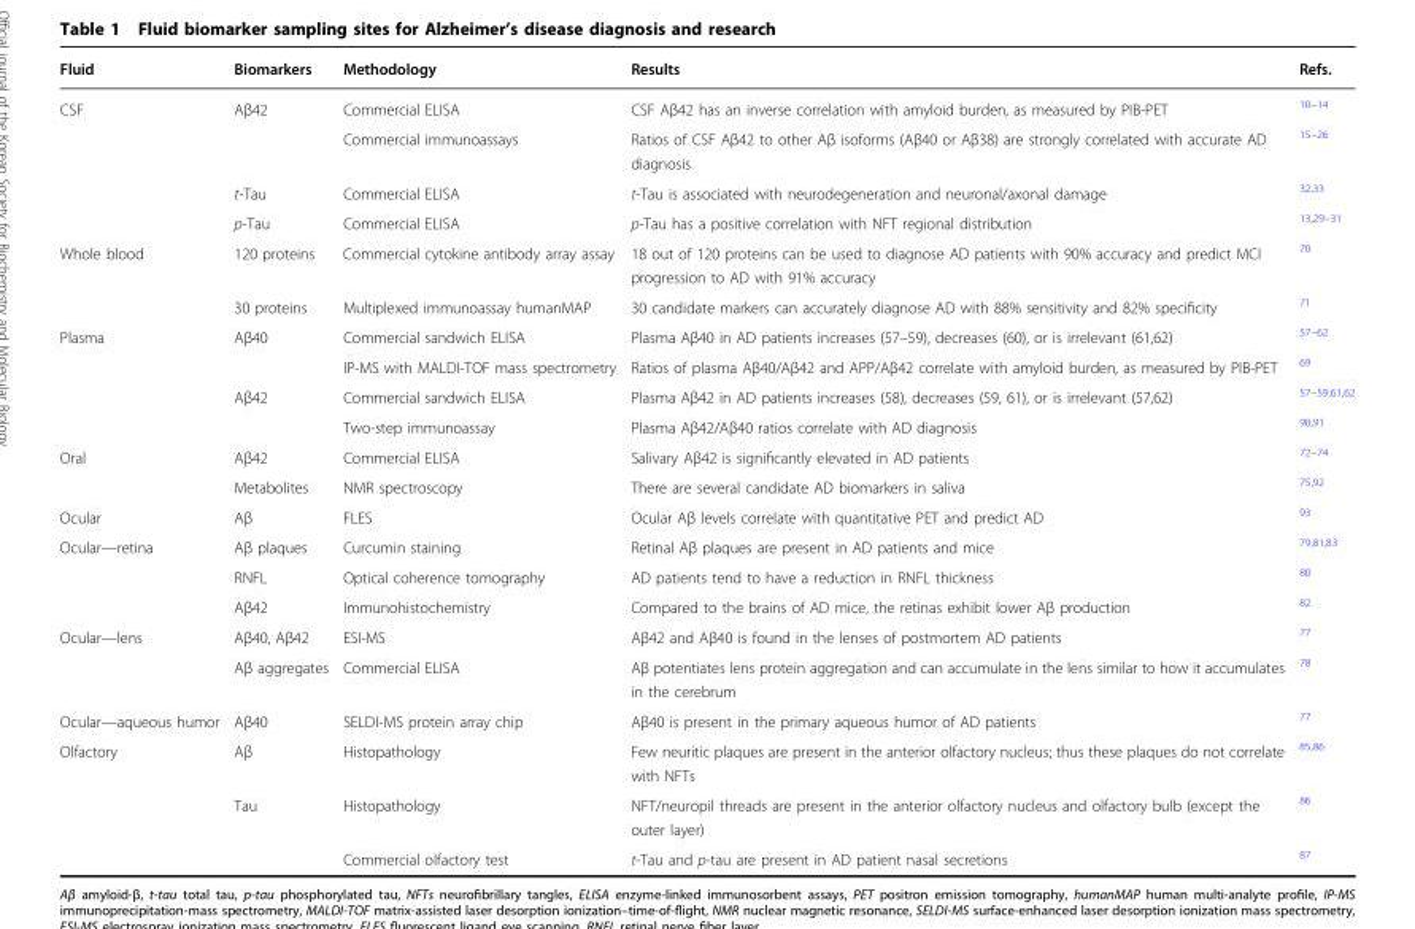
<table><thead><tr><td>Fluid</td><td>Biomarkers</td><td>Methodology</td><td>Results</td><td>Refs.</td></tr></thead><tbody><tr><td rowspan="4">CSF</td><td rowspan="2">Aβ42</td><td>Commercial ELISA</td><td>CSF Aβ42 has an inverse correlation with amyloid burden, as measured by PIB-PET</td><td><sup>10–14</sup></td></tr><tr><td>Commercial immunoassays</td><td>Ratios of CSF Aβ42 to other Aβ isoforms (Aβ40 or Aβ38) are strongly correlated with accurate AD diagnosis</td><td><sup>15–26</sup></td></tr><tr><td>t-Tau</td><td>Commercial ELISA</td><td>t-Tau is associated with neurodegeneration and neuronal/axonal damage</td><td><sup>32,33</sup></td></tr><tr><td>p-Tau</td><td>Commercial ELISA</td><td>p-Tau has a positive correlation with NFT regional distribution</td><td><sup>13,29–31</sup></td></tr><tr><td rowspan="2">Whole blood</td><td>120 proteins</td><td>Commercial cytokine antibody array assay</td><td>18 out of 120 proteins can be used to diagnose AD patients with 90% accuracy and predict MCI progression to AD with 91% accuracy</td><td><sup>70</sup></td></tr><tr><td>30 proteins</td><td>Multiplexed immunoassay humanMAP</td><td>30 candidate markers can accurately diagnose AD with 88% sensitivity and 82% specificity</td><td><sup>71</sup></td></tr><tr><td rowspan="4">Plasma</td><td rowspan="2">Aβ40</td><td>Commercial sandwich ELISA</td><td>Plasma Aβ40 in AD patients increases (57–59), decreases (60), or is irrelevant (61,62)</td><td><sup>57–62</sup></td></tr><tr><td>IP-MS with MALDI-TOF mass spectrometry</td><td>Ratios of plasma Aβ40/Aβ42 and APP/Aβ42 correlate with amyloid burden, as measured by PIB-PET</td><td><sup>69</sup></td></tr><tr><td rowspan="2">Aβ42</td><td>Commercial sandwich ELISA</td><td>Plasma Aβ42 in AD patients increases (58), decreases (59, 61), or is irrelevant (57,62)</td><td><sup>57–59,61,62</sup></td></tr><tr><td>Two-step immunoassay</td><td>Plasma Aβ42/Aβ40 ratios correlate with AD diagnosis</td><td><sup>90,91</sup></td></tr><tr><td rowspan="2">Oral</td><td>Aβ42</td><td>Commercial ELISA</td><td>Salivary Aβ42 is significantly elevated in AD patients</td><td><sup>72–74</sup></td></tr><tr><td>Metabolites</td><td>NMR spectroscopy</td><td>There are several candidate AD biomarkers in saliva</td><td><sup>75,92</sup></td></tr><tr><td>Ocular</td><td>Aβ</td><td>FLES</td><td>Ocular Aβ levels correlate with quantitative PET and predict AD</td><td><sup>93</sup></td></tr><tr><td rowspan="3">Ocular—retina</td><td>Aβ plaques</td><td>Curcumin staining</td><td>Retinal Aβ plaques are present in AD patients and mice</td><td><sup>79,81,83</sup></td></tr><tr><td>RNFL</td><td>Optical coherence tomography</td><td>AD patients tend to have a reduction in RNFL thickness</td><td><sup>80</sup></td></tr><tr><td>Aβ42</td><td>Immunohistochemistry</td><td>Compared to the brains of AD mice, the retinas exhibit lower Aβ production</td><td><sup>82</sup></td></tr><tr><td rowspan="2">Ocular—lens</td><td>Aβ40, Aβ42</td><td>ESI-MS</td><td>Aβ42 and Aβ40 is found in the lenses of postmortem AD patients</td><td><sup>77</sup></td></tr><tr><td>Aβ aggregates</td><td>Commercial ELISA</td><td>Aβ potentiates lens protein aggregation and can accumulate in the lens similar to how it accumulates in the cerebrum</td><td><sup>78</sup></td></tr><tr><td>Ocular—aqueous humor</td><td>Aβ40</td><td>SELDI-MS protein array chip</td><td>Aβ40 is present in the primary aqueous humor of AD patients</td><td><sup>77</sup></td></tr><tr><td rowspan="3">Olfactory</td><td>Aβ</td><td>Histopathology</td><td>Few neuritic plaques are present in the anterior olfactory nucleus; thus these plaques do not correlate with NFTs</td><td><sup>85,86</sup></td></tr><tr><td rowspan="2">Tau</td><td>Histopathology</td><td>NFT/neuropil threads are present in the anterior olfactory nucleus and olfactory bulb (except the outer layer)</td><td><sup>86</sup></td></tr><tr><td>Commercial olfactory test</td><td>t-Tau and p-tau are present in AD patient nasal secretions</td><td><sup>87</sup></td></tr></tbody></table>